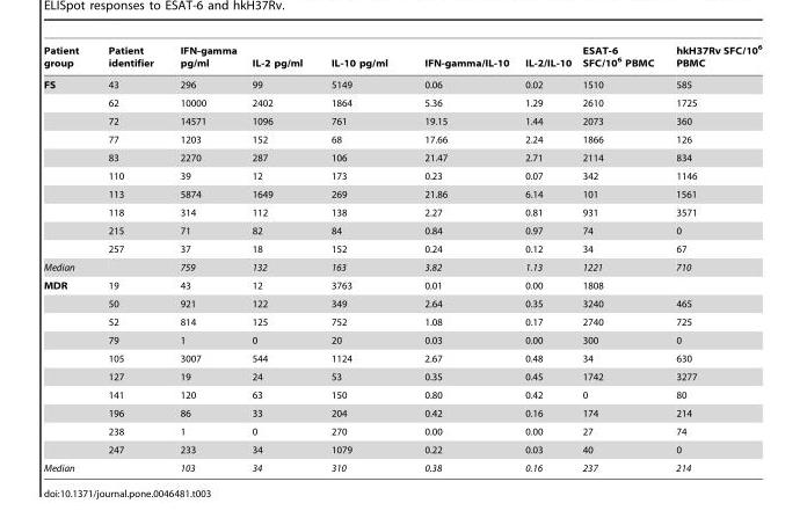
<table><thead><tr><td>Patient group</td><td>Patient identifier</td><td>IFN-gamma pg/ml</td><td>IL-2 pg/ml</td><td>IL-10 pg/ml</td><td>IFN-gamma/IL-10</td><td>IL-2/IL-10</td><td>ESAT-6 SFC/10<sup>6</sup> PBMC</td><td>hkH37Rv SFC/10<sup>6</sup> PBMC</td></tr></thead><tbody><tr><td rowspan="10">FS</td><td>43</td><td>296</td><td>99</td><td>5149</td><td>0.06</td><td>0.02</td><td>1510</td><td>585</td></tr><tr><td>62</td><td>10000</td><td>2402</td><td>1864</td><td>5.36</td><td>1.29</td><td>2610</td><td>1725</td></tr><tr><td>72</td><td>14571</td><td>1096</td><td>761</td><td>19.15</td><td>1.44</td><td>2073</td><td>360</td></tr><tr><td>77</td><td>1203</td><td>152</td><td>68</td><td>17.66</td><td>2.24</td><td>1866</td><td>126</td></tr><tr><td>83</td><td>2270</td><td>287</td><td>106</td><td>21.47</td><td>2.71</td><td>2114</td><td>834</td></tr><tr><td>110</td><td>39</td><td>12</td><td>173</td><td>0.23</td><td>0.07</td><td>342</td><td>1146</td></tr><tr><td>113</td><td>5874</td><td>1649</td><td>269</td><td>21.86</td><td>6.14</td><td>101</td><td>1561</td></tr><tr><td>118</td><td>314</td><td>112</td><td>138</td><td>2.27</td><td>0.81</td><td>931</td><td>3571</td></tr><tr><td>215</td><td>71</td><td>82</td><td>84</td><td>0.84</td><td>0.97</td><td>74</td><td>0</td></tr><tr><td>257</td><td>37</td><td>18</td><td>152</td><td>0.24</td><td>0.12</td><td>34</td><td>67</td></tr><tr><td>Median</td><td></td><td>759</td><td>132</td><td>163</td><td>3.82</td><td>1.13</td><td>1221</td><td>710</td></tr><tr><td rowspan="10">MDR</td><td>19</td><td>43</td><td>12</td><td>3763</td><td>0.01</td><td>0.00</td><td>1808</td><td></td></tr><tr><td>50</td><td>921</td><td>122</td><td>349</td><td>2.64</td><td>0.35</td><td>3240</td><td>465</td></tr><tr><td>52</td><td>814</td><td>125</td><td>752</td><td>1.08</td><td>0.17</td><td>2740</td><td>725</td></tr><tr><td>79</td><td>1</td><td>0</td><td>20</td><td>0.03</td><td>0.00</td><td>300</td><td>0</td></tr><tr><td>105</td><td>3007</td><td>544</td><td>1124</td><td>2.67</td><td>0.48</td><td>34</td><td>630</td></tr><tr><td>127</td><td>19</td><td>24</td><td>53</td><td>0.35</td><td>0.45</td><td>1742</td><td>3277</td></tr><tr><td>141</td><td>120</td><td>63</td><td>150</td><td>0.80</td><td>0.42</td><td>0</td><td>80</td></tr><tr><td>196</td><td>86</td><td>33</td><td>204</td><td>0.42</td><td>0.16</td><td>174</td><td>214</td></tr><tr><td>238</td><td>1</td><td>0</td><td>270</td><td>0.00</td><td>0.00</td><td>27</td><td>74</td></tr><tr><td>247</td><td>233</td><td>34</td><td>1079</td><td>0.22</td><td>0.03</td><td>40</td><td>0</td></tr><tr><td>Median</td><td></td><td>103</td><td>34</td><td>310</td><td>0.38</td><td>0.16</td><td>237</td><td>214</td></tr></tbody></table>